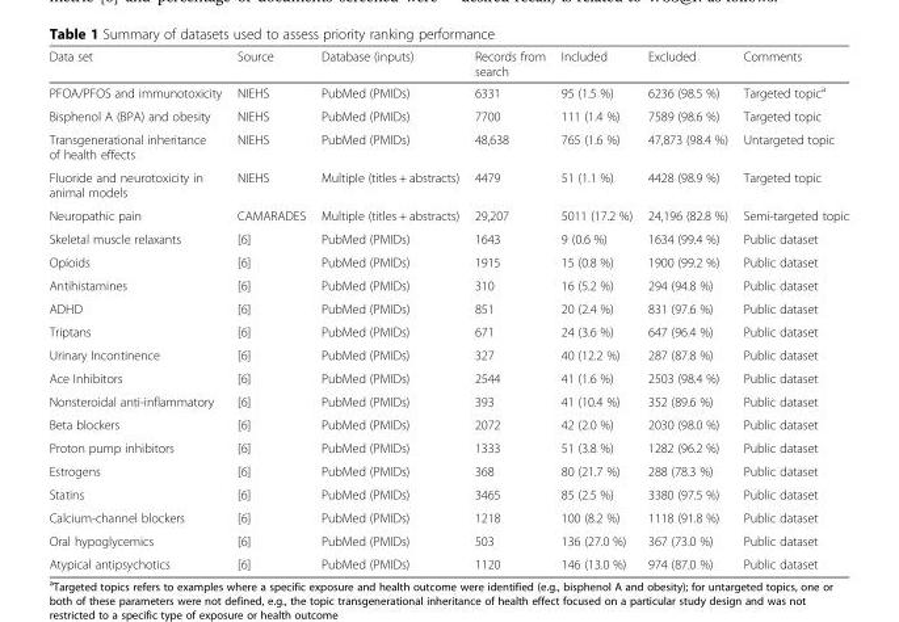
<table><thead><tr><td>Data set</td><td>Source</td><td>Database (inputs)</td><td>Records from search</td><td>Included</td><td>Excluded</td><td>Comments</td></tr></thead><tbody><tr><td>PFOA/PFOS and immunotoxicity</td><td>NIEHS</td><td>PubMed (PMIDs)</td><td>6331</td><td>95 (1.5 %)</td><td>6236 (98.5 %)</td><td>Targeted topic<sup>a</sup></td></tr><tr><td>Bisphenol A (BPA) and obesity</td><td>NIEHS</td><td>PubMed (PMIDs)</td><td>7700</td><td>111 (1.4 %)</td><td>7589 (98.6 %)</td><td>Targeted topic</td></tr><tr><td>Transgenerational inheritance of health effects</td><td>NIEHS</td><td>PubMed (PMIDs)</td><td>48,638</td><td>765 (1.6 %)</td><td>47,873 (98.4 %)</td><td>Untargeted topic</td></tr><tr><td>Fluoride and neurotoxicity in animal models</td><td>NIEHS</td><td>Multiple (titles + abstracts)</td><td>4479</td><td>51 (1.1 %)</td><td>4428 (98.9 %)</td><td>Targeted topic</td></tr><tr><td>Neuropathic pain</td><td>CAMARADES</td><td>Multiple (titles + abstracts)</td><td>29,207</td><td>5011 (17.2 %)</td><td>24,196 (82.8 %)</td><td>Semi-targeted topic</td></tr><tr><td>Skeletal muscle relaxants</td><td>[6]</td><td>PubMed (PMIDs)</td><td>1643</td><td>9 (0.6 %)</td><td>1634 (99.4 %)</td><td>Public dataset</td></tr><tr><td>Opioids</td><td>[6]</td><td>PubMed (PMIDs)</td><td>1915</td><td>15 (0.8 %)</td><td>1900 (99.2 %)</td><td>Public dataset</td></tr><tr><td>Antihistamines</td><td>[6]</td><td>PubMed (PMIDs)</td><td>310</td><td>16 (5.2 %)</td><td>294 (94.8 %)</td><td>Public dataset</td></tr><tr><td>ADHD</td><td>[6]</td><td>PubMed (PMIDs)</td><td>851</td><td>20 (2.4 %)</td><td>831 (97.6 %)</td><td>Public dataset</td></tr><tr><td>Triptans</td><td>[6]</td><td>PubMed (PMIDs)</td><td>671</td><td>24 (3.6 %)</td><td>647 (96.4 %)</td><td>Public dataset</td></tr><tr><td>Urinary Incontinence</td><td>[6]</td><td>PubMed (PMIDs)</td><td>327</td><td>40 (12.2 %)</td><td>287 (87.8 %)</td><td>Public dataset</td></tr><tr><td>Ace Inhibitors</td><td>[6]</td><td>PubMed (PMIDs)</td><td>2544</td><td>41 (1.6 %)</td><td>2503 (98.4 %)</td><td>Public dataset</td></tr><tr><td>Nonsteroidal anti-inflammatory</td><td>[6]</td><td>PubMed (PMIDs)</td><td>393</td><td>41 (10.4 %)</td><td>352 (89.6 %)</td><td>Public dataset</td></tr><tr><td>Beta blockers</td><td>[6]</td><td>PubMed (PMIDs)</td><td>2072</td><td>42 (2.0 %)</td><td>2030 (98.0 %)</td><td>Public dataset</td></tr><tr><td>Proton pump inhibitors</td><td>[6]</td><td>PubMed (PMIDs)</td><td>1333</td><td>51 (3.8 %)</td><td>1282 (96.2 %)</td><td>Public dataset</td></tr><tr><td>Estrogens</td><td>[6]</td><td>PubMed (PMIDs)</td><td>368</td><td>80 (21.7 %)</td><td>288 (78.3 %)</td><td>Public dataset</td></tr><tr><td>Statins</td><td>[6]</td><td>PubMed (PMIDs)</td><td>3465</td><td>85 (2.5 %)</td><td>3380 (97.5 %)</td><td>Public dataset</td></tr><tr><td>Calcium-channel blockers</td><td>[6]</td><td>PubMed (PMIDs)</td><td>1218</td><td>100 (8.2 %)</td><td>1118 (91.8 %)</td><td>Public dataset</td></tr><tr><td>Oral hypoglycemics</td><td>[6]</td><td>PubMed (PMIDs)</td><td>503</td><td>136 (27.0 %)</td><td>367 (73.0 %)</td><td>Public dataset</td></tr><tr><td>Atypical antipsychotics</td><td>[6]</td><td>PubMed (PMIDs)</td><td>1120</td><td>146 (13.0 %)</td><td>974 (87.0 %)</td><td>Public dataset</td></tr></tbody></table>